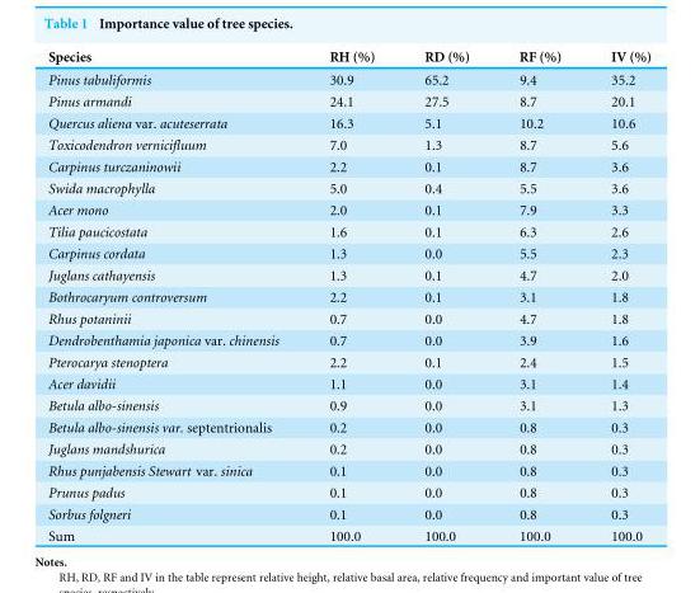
<table><thead><tr><td>Species</td><td>RH (%)</td><td>RD (%)</td><td>RF (%)</td><td>IV (%)</td></tr></thead><tbody><tr><td>Pinus tabuliformis</td><td>30.9</td><td>65.2</td><td>9.4</td><td>35.2</td></tr><tr><td>Pinus armandi</td><td>24.1</td><td>27.5</td><td>8.7</td><td>20.1</td></tr><tr><td>Quercus aliena var. acuteserrata</td><td>16.3</td><td>5.1</td><td>10.2</td><td>10.6</td></tr><tr><td>Toxicodendron vernicifluum</td><td>7.0</td><td>1.3</td><td>8.7</td><td>5.6</td></tr><tr><td>Carpinus turczaninowii</td><td>2.2</td><td>0.1</td><td>8.7</td><td>3.6</td></tr><tr><td>Swida macrophylla</td><td>5.0</td><td>0.4</td><td>5.5</td><td>3.6</td></tr><tr><td>Acer mono</td><td>2.0</td><td>0.1</td><td>7.9</td><td>3.3</td></tr><tr><td>Tilia paucicostata</td><td>1.6</td><td>0.1</td><td>6.3</td><td>2.6</td></tr><tr><td>Carpinus cordata</td><td>1.3</td><td>0.0</td><td>5.5</td><td>2.3</td></tr><tr><td>Juglans cathayensis</td><td>1.3</td><td>0.1</td><td>4.7</td><td>2.0</td></tr><tr><td>Bothrocaryum controversum</td><td>2.2</td><td>0.1</td><td>3.1</td><td>1.8</td></tr><tr><td>Rhus potaninii</td><td>0.7</td><td>0.0</td><td>4.7</td><td>1.8</td></tr><tr><td>Dendrobenthamia japonica var. chinensis</td><td>0.7</td><td>0.0</td><td>3.9</td><td>1.6</td></tr><tr><td>Pterocarya stenoptera</td><td>2.2</td><td>0.1</td><td>2.4</td><td>1.5</td></tr><tr><td>Acer davidii</td><td>1.1</td><td>0.0</td><td>3.1</td><td>1.4</td></tr><tr><td>Betula albo-sinensis</td><td>0.9</td><td>0.0</td><td>3.1</td><td>1.3</td></tr><tr><td>Betula albo-sinensis var. septentrionalis</td><td>0.2</td><td>0.0</td><td>0.8</td><td>0.3</td></tr><tr><td>Juglans mandshurica</td><td>0.2</td><td>0.0</td><td>0.8</td><td>0.3</td></tr><tr><td>Rhus punjabensis Stewart var. sinica</td><td>0.1</td><td>0.0</td><td>0.8</td><td>0.3</td></tr><tr><td>Prunus padus</td><td>0.1</td><td>0.0</td><td>0.8</td><td>0.3</td></tr><tr><td>Sorbus folgneri</td><td>0.1</td><td>0.0</td><td>0.8</td><td>0.3</td></tr><tr><td>Sum</td><td>100.0</td><td>100.0</td><td>100.0</td><td>100.0</td></tr></tbody></table>